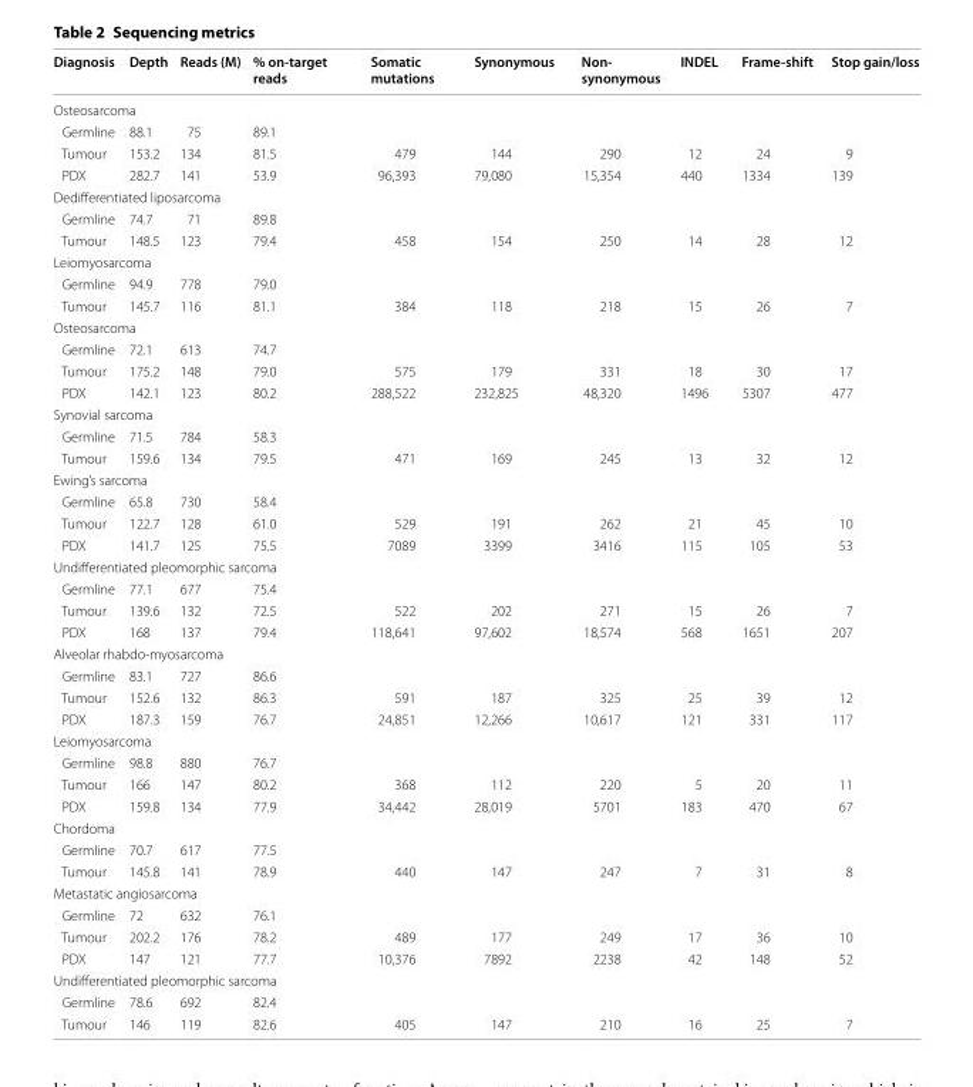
<table><thead><tr><td>Diagnosis</td><td>Depth</td><td>Reads (M)</td><td>% on‑target reads</td><td>Somatic mutations</td><td>Synonymous</td><td>Non‑ synonymous</td><td>INDEL</td><td>Frame‑shift</td><td>Stop gain/loss</td></tr></thead><tbody><tr><td colspan="10">Osteosarcoma</td></tr><tr><td>Germline</td><td>88.1</td><td>75</td><td>89.1</td><td></td><td></td><td></td><td></td><td></td><td></td></tr><tr><td>Tumour</td><td>153.2</td><td>134</td><td>81.5</td><td>479</td><td>144</td><td>290</td><td>12</td><td>24</td><td>9</td></tr><tr><td>PDX</td><td>282.7</td><td>141</td><td>53.9</td><td>96,393</td><td>79,080</td><td>15,354</td><td>440</td><td>1334</td><td>139</td></tr><tr><td colspan="10">Dedifferentiated liposarcoma</td></tr><tr><td>Germline</td><td>74.7</td><td>71</td><td>89.8</td><td></td><td></td><td></td><td></td><td></td><td></td></tr><tr><td>Tumour</td><td>148.5</td><td>123</td><td>79.4</td><td>458</td><td>154</td><td>250</td><td>14</td><td>28</td><td>12</td></tr><tr><td colspan="10">Leiomyosarcoma</td></tr><tr><td>Germline</td><td>94.9</td><td>778</td><td>79.0</td><td></td><td></td><td></td><td></td><td></td><td></td></tr><tr><td>Tumour</td><td>145.7</td><td>116</td><td>81.1</td><td>384</td><td>118</td><td>218</td><td>15</td><td>26</td><td>7</td></tr><tr><td colspan="10">Osteosarcoma</td></tr><tr><td>Germline</td><td>72.1</td><td>613</td><td>74.7</td><td></td><td></td><td></td><td></td><td></td><td></td></tr><tr><td>Tumour</td><td>175.2</td><td>148</td><td>79.0</td><td>575</td><td>179</td><td>331</td><td>18</td><td>30</td><td>17</td></tr><tr><td>PDX</td><td>142.1</td><td>123</td><td>80.2</td><td>288,522</td><td>232,825</td><td>48,320</td><td>1496</td><td>5307</td><td>477</td></tr><tr><td colspan="10">Synovial sarcoma</td></tr><tr><td>Germline</td><td>71.5</td><td>784</td><td>58.3</td><td></td><td></td><td></td><td></td><td></td><td></td></tr><tr><td>Tumour</td><td>159.6</td><td>134</td><td>79.5</td><td>471</td><td>169</td><td>245</td><td>13</td><td>32</td><td>12</td></tr><tr><td colspan="10">Ewing’s sarcoma</td></tr><tr><td>Germline</td><td>65.8</td><td>730</td><td>58.4</td><td></td><td></td><td></td><td></td><td></td><td></td></tr><tr><td>Tumour</td><td>122.7</td><td>128</td><td>61.0</td><td>529</td><td>191</td><td>262</td><td>21</td><td>45</td><td>10</td></tr><tr><td>PDX</td><td>141.7</td><td>125</td><td>75.5</td><td>7089</td><td>3399</td><td>3416</td><td>115</td><td>105</td><td>53</td></tr><tr><td colspan="10">Undifferentiated pleomorphic sarcoma</td></tr><tr><td>Germline</td><td>77.1</td><td>677</td><td>75.4</td><td></td><td></td><td></td><td></td><td></td><td></td></tr><tr><td>Tumour</td><td>139.6</td><td>132</td><td>72.5</td><td>522</td><td>202</td><td>271</td><td>15</td><td>26</td><td>7</td></tr><tr><td>PDX</td><td>168</td><td>137</td><td>79.4</td><td>118,641</td><td>97,602</td><td>18,574</td><td>568</td><td>1651</td><td>207</td></tr><tr><td colspan="10">Alveolar rhabdo‑myosarcoma</td></tr><tr><td>Germline</td><td>83.1</td><td>727</td><td>86.6</td><td></td><td></td><td></td><td></td><td></td><td></td></tr><tr><td>Tumour</td><td>152.6</td><td>132</td><td>86.3</td><td>591</td><td>187</td><td>325</td><td>25</td><td>39</td><td>12</td></tr><tr><td>PDX</td><td>187.3</td><td>159</td><td>76.7</td><td>24,851</td><td>12,266</td><td>10,617</td><td>121</td><td>331</td><td>117</td></tr><tr><td colspan="10">Leiomyosarcoma</td></tr><tr><td>Germline</td><td>98.8</td><td>880</td><td>76.7</td><td></td><td></td><td></td><td></td><td></td><td></td></tr><tr><td>Tumour</td><td>166</td><td>147</td><td>80.2</td><td>368</td><td>112</td><td>220</td><td>5</td><td>20</td><td>11</td></tr><tr><td>PDX</td><td>159.8</td><td>134</td><td>77.9</td><td>34,442</td><td>28,019</td><td>5701</td><td>183</td><td>470</td><td>67</td></tr><tr><td colspan="10">Chordoma</td></tr><tr><td>Germline</td><td>70.7</td><td>617</td><td>77.5</td><td></td><td></td><td></td><td></td><td></td><td></td></tr><tr><td>Tumour</td><td>145.8</td><td>141</td><td>78.9</td><td>440</td><td>147</td><td>247</td><td>7</td><td>31</td><td>8</td></tr><tr><td colspan="10">Metastatic angiosarcoma</td></tr><tr><td>Germline</td><td>72</td><td>632</td><td>76.1</td><td></td><td></td><td></td><td></td><td></td><td></td></tr><tr><td>Tumour</td><td>202.2</td><td>176</td><td>78.2</td><td>489</td><td>177</td><td>249</td><td>17</td><td>36</td><td>10</td></tr><tr><td>PDX</td><td>147</td><td>121</td><td>77.7</td><td>10,376</td><td>7892</td><td>2238</td><td>42</td><td>148</td><td>52</td></tr><tr><td colspan="10">Undifferentiated pleomorphic sarcoma</td></tr><tr><td>Germline</td><td>78.6</td><td>692</td><td>82.4</td><td></td><td></td><td></td><td></td><td></td><td></td></tr><tr><td>Tumour</td><td>146</td><td>119</td><td>82.6</td><td>405</td><td>147</td><td>210</td><td>16</td><td>25</td><td>7</td></tr></tbody></table>